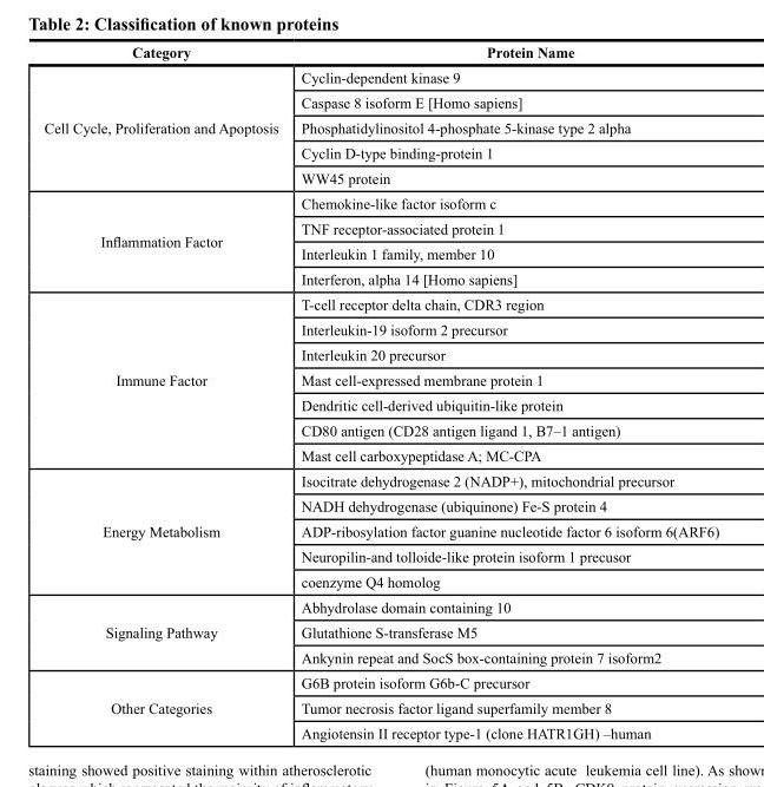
<table><thead><tr><td>category</td><td>Protein Name</td></tr></thead><tbody><tr><td rowspan="5">Cell Cycle, Proliferation and Apoptosis</td><td>Cyclin-dependent kinase 9</td></tr><tr><td>Caspase 8 isoform E [Homo sapiens]</td></tr><tr><td>Phosphatidylinositol 4-phosphate 5-kinase type 2 alpha</td></tr><tr><td>Cyclin D-type binding-protein 1</td></tr><tr><td>WW45 protein</td></tr><tr><td rowspan="4">Inflammation Factor</td><td>Chemokine-like factor isoform c</td></tr><tr><td>TNF receptor-associated protein 1</td></tr><tr><td>Interleukin 1 family, member 10</td></tr><tr><td>Interferon, alpha 14 [Homo sapiens]</td></tr><tr><td rowspan="7">Immune Factor</td><td>T-cell receptor delta chain, CDR3 region</td></tr><tr><td>Interleukin-19 isoform 2 precursor</td></tr><tr><td>Interleukin 20 precursor</td></tr><tr><td>Mast cell-expressed membrane protein 1</td></tr><tr><td>Dendritic cell-derived ubiquitin-like protein</td></tr><tr><td>CD80 antigen (CD28 antigen ligand 1, B7–1 antigen)</td></tr><tr><td>Mast cell carboxypeptidase A; MC-CPA</td></tr><tr><td rowspan="5">Energy Metabolism</td><td>Isocitrate dehydrogenase 2 (NADP+), mitochondrial precursor</td></tr><tr><td>NADH dehydrogenase (ubiquinone) Fe-S protein 4</td></tr><tr><td>ADP-ribosylation factor guanine nucleotide factor 6 isoform 6(ARF6)</td></tr><tr><td>Neuropilin-and tolloide-like protein isoform 1 precusor</td></tr><tr><td>coenzyme Q4 homolog</td></tr><tr><td rowspan="3">Signaling Pathway</td><td>Abhydrolase domain containing 10</td></tr><tr><td>Glutathione S-transferase M5</td></tr><tr><td>Ankynin repeat and SocS box-containing protein 7 isoform2</td></tr><tr><td rowspan="3">Other Categories</td><td>G6B protein isoform G6b-C precursor</td></tr><tr><td>Tumor necrosis factor ligand superfamily member 8</td></tr><tr><td>Angiotensin II receptor type-1 (clone HATR1GH) –human</td></tr></tbody></table>